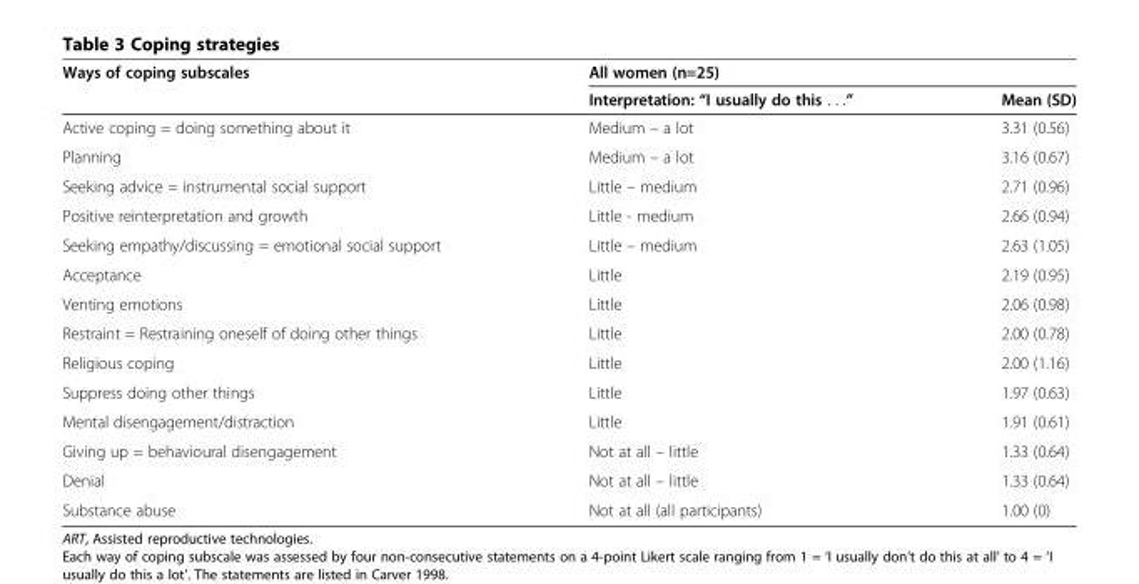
<table><thead><tr><td rowspan="2">Ways of coping subscales</td><td colspan="2">All women (n=25)</td></tr><tr><td>Interpretation: “I usually do this . . .”</td><td>Mean (SD)</td></tr></thead><tbody><tr><td>Active coping = doing something about it</td><td>Medium – a lot</td><td>3.31 (0.56)</td></tr><tr><td>Planning</td><td>Medium – a lot</td><td>3.16 (0.67)</td></tr><tr><td>Seeking advice = instrumental social support</td><td>Little – medium</td><td>2.71 (0.96)</td></tr><tr><td>Positive reinterpretation and growth</td><td>Little - medium</td><td>2.66 (0.94)</td></tr><tr><td>Seeking empathy/discussing = emotional social support</td><td>Little – medium</td><td>2.63 (1.05)</td></tr><tr><td>Acceptance</td><td>Little</td><td>2.19 (0.95)</td></tr><tr><td>Venting emotions</td><td>Little</td><td>2.06 (0.98)</td></tr><tr><td>Restraint = Restraining oneself of doing other things</td><td>Little</td><td>2.00 (0.78)</td></tr><tr><td>Religious coping</td><td>Little</td><td>2.00 (1.16)</td></tr><tr><td>Suppress doing other things</td><td>Little</td><td>1.97 (0.63)</td></tr><tr><td>Mental disengagement/distraction</td><td>Little</td><td>1.91 (0.61)</td></tr><tr><td>Giving up = behavioural disengagement</td><td>Not at all – little</td><td>1.33 (0.64)</td></tr><tr><td>Denial</td><td>Not at all – little</td><td>1.33 (0.64)</td></tr><tr><td>Substance abuse</td><td>Not at all (all participants)</td><td>1.00 (0)</td></tr></tbody></table>